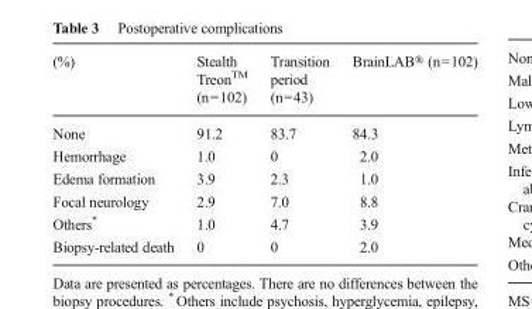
<table><thead><tr><td>(%)</td><td>Stealth Treon<sup>TM</sup> (n=102)</td><td>Transition period (n=43)</td><td>BrainLAB® (n=102)</td></tr></thead><tbody><tr><td>None</td><td>91.2</td><td>83.7</td><td>84.3</td></tr><tr><td>Hemorrhage</td><td>1.0</td><td>0</td><td>2.0</td></tr><tr><td>Edema formation</td><td>3.9</td><td>2.3</td><td>1.0</td></tr><tr><td>Focal neurology</td><td>2.9</td><td>7.0</td><td>8.8</td></tr><tr><td>Others*</td><td>1.0</td><td>4.7</td><td>3.9</td></tr><tr><td>Biopsy-related death</td><td>0</td><td>0</td><td>2.0</td></tr></tbody></table>